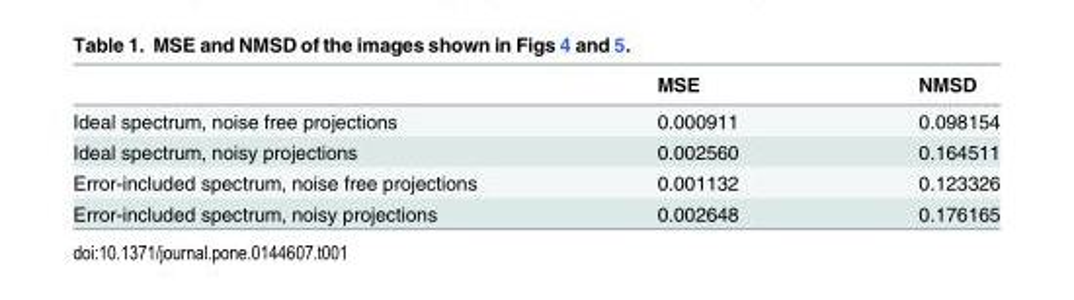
<table><thead><tr><td></td><td>MSE</td><td>NMSD</td></tr></thead><tbody><tr><td>Ideal spectrum, noise free projections</td><td>0.000911</td><td>0.098154</td></tr><tr><td>Ideal spectrum, noisy projections</td><td>0.002560</td><td>0.164511</td></tr><tr><td>Error-included spectrum, noise free projections</td><td>0.001132</td><td>0.123326</td></tr><tr><td>Error-included spectrum, noisy projections</td><td>0.002648</td><td>0.176165</td></tr></tbody></table>